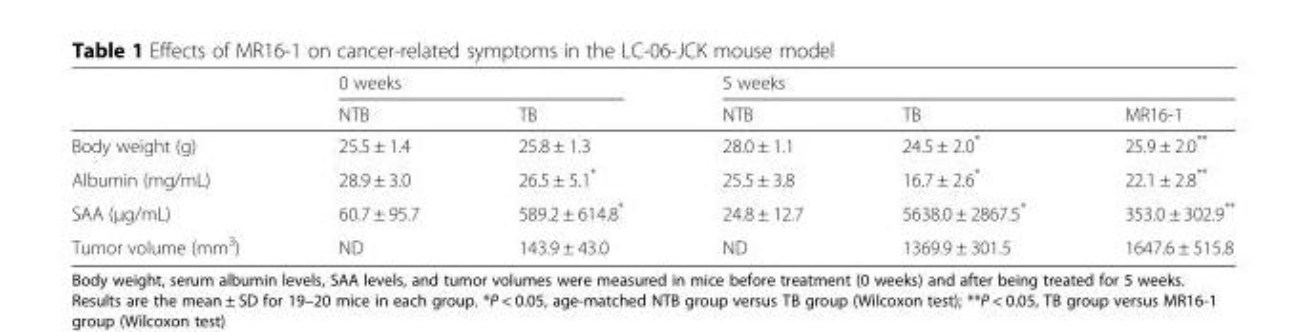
<table><thead><tr><td rowspan="2"></td><td colspan="2">0 weeks</td><td colspan="3">5 weeks</td></tr><tr><td>NTB</td><td>TB</td><td>NTB</td><td>TB</td><td>MR16-1</td></tr></thead><tbody><tr><td>Body weight (g)</td><td>25.5 ± 1.4</td><td>25.8 ± 1.3</td><td>28.0 ± 1.1</td><td>24.5 ± 2.0*</td><td>25.9 ± 2.0**</td></tr><tr><td>Albumin (mg/mL)</td><td>28.9 ± 3.0</td><td>26.5 ± 5.1*</td><td>25.5 ± 3.8</td><td>16.7 ± 2.6*</td><td>22.1 ± 2.8**</td></tr><tr><td>SAA (μg/mL)</td><td>60.7 ± 95.7</td><td>589.2 ± 614.8*</td><td>24.8 ± 12.7</td><td>5638.0 ± 2867.5*</td><td>353.0 ± 302.9**</td></tr><tr><td>Tumor volume (mm<sup>3</sup>)</td><td>ND</td><td>143.9 ± 43.0</td><td>ND</td><td>1369.9 ± 301.5</td><td>1647.6 ± 515.8</td></tr></tbody></table>